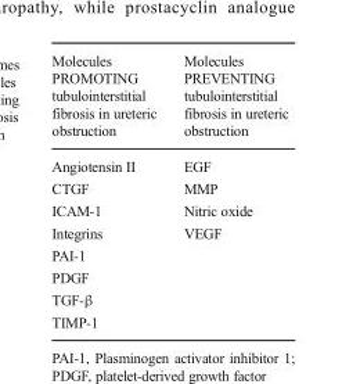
<table><thead><tr><td>Molecules PROMOTING tubulointerstitial fibrosis in ureteric obstruction</td><td>Molecules PREVENTING tubulointerstitial fibrosis in ureteric obstruction</td></tr></thead><tbody><tr><td>Angiotensin II</td><td>EGF</td></tr><tr><td>CTGF</td><td>MMP</td></tr><tr><td>ICAM-1</td><td>Nitric oxide</td></tr><tr><td>Integrins</td><td>VEGF</td></tr><tr><td colspan="2">PAI-1</td></tr><tr><td colspan="2">PDGF</td></tr><tr><td colspan="2">TGF-β</td></tr><tr><td>TIMP-1</td><td></td></tr></tbody></table>